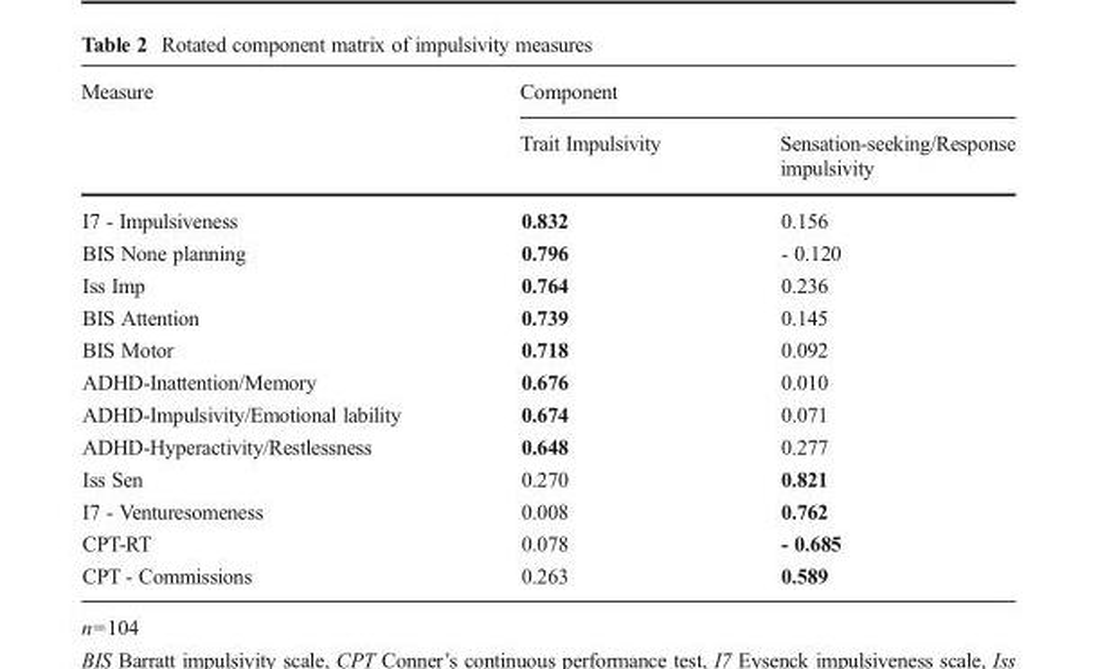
<table><thead><tr><td rowspan="2">Measure</td><td colspan="2">Component</td></tr><tr><td>Trait Impulsivity</td><td>Sensation-seeking/Response impulsivity</td></tr></thead><tbody><tr><td>I7 - Impulsiveness</td><td>0.832</td><td>0.156</td></tr><tr><td>BIS None planning</td><td>0.796</td><td>- 0.120</td></tr><tr><td>Iss Imp</td><td>0.764</td><td>0.236</td></tr><tr><td>BIS Attention</td><td>0.739</td><td>0.145</td></tr><tr><td>BIS Motor</td><td>0.718</td><td>0.092</td></tr><tr><td>ADHD-Inattention/Memory</td><td>0.676</td><td>0.010</td></tr><tr><td>ADHD-Impulsivity/Emotional lability</td><td>0.674</td><td>0.071</td></tr><tr><td>ADHD-Hyperactivity/Restlessness</td><td>0.648</td><td>0.277</td></tr><tr><td>Iss Sen</td><td>0.270</td><td>0.821</td></tr><tr><td>I7 - Venturesomeness</td><td>0.008</td><td>0.762</td></tr><tr><td>CPT-RT</td><td>0.078</td><td>- 0.685</td></tr><tr><td>CPT - Commissions</td><td>0.263</td><td>0.589</td></tr></tbody></table>